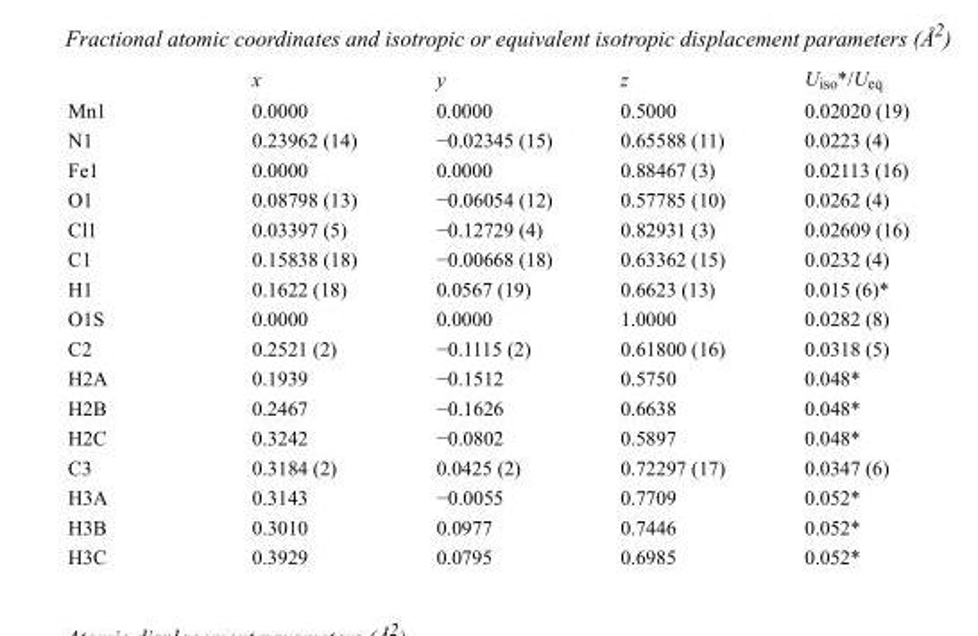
<table><thead><tr><td></td><td>x</td><td>y</td><td>z</td><td>U<sub>iso</sub>*/U<sub>eq</sub></td></tr></thead><tbody><tr><td>Mn1</td><td>0.0000</td><td>0.0000</td><td>0.5000</td><td>0.02020 (19)</td></tr><tr><td>N1</td><td>0.23962 (14)</td><td>−0.02345 (15)</td><td>0.65588 (11)</td><td>0.0223 (4)</td></tr><tr><td>Fe1</td><td>0.0000</td><td>0.0000</td><td>0.88467 (3)</td><td>0.02113 (16)</td></tr><tr><td>O1</td><td>0.08798 (13)</td><td>−0.06054 (12)</td><td>0.57785 (10)</td><td>0.0262 (4)</td></tr><tr><td>Cl1</td><td>0.03397 (5)</td><td>−0.12729 (4)</td><td>0.82931 (3)</td><td>0.02609 (16)</td></tr><tr><td>C1</td><td>0.15838 (18)</td><td>−0.00668 (18)</td><td>0.63362 (15)</td><td>0.0232 (4)</td></tr><tr><td>H1</td><td>0.1622 (18)</td><td>0.0567 (19)</td><td>0.6623 (13)</td><td>0.015 (6)*</td></tr><tr><td>O1S</td><td>0.0000</td><td>0.0000</td><td>1.0000</td><td>0.0282 (8)</td></tr><tr><td>C2</td><td>0.2521 (2)</td><td>−0.1115 (2)</td><td>0.61800 (16)</td><td>0.0318 (5)</td></tr><tr><td>H2A</td><td>0.1939</td><td>−0.1512</td><td>0.5750</td><td>0.048*</td></tr><tr><td>H2B</td><td>0.2467</td><td>−0.1626</td><td>0.6638</td><td>0.048*</td></tr><tr><td>H2C</td><td>0.3242</td><td>−0.0802</td><td>0.5897</td><td>0.048*</td></tr><tr><td>C3</td><td>0.3184 (2)</td><td>0.0425 (2)</td><td>0.72297 (17)</td><td>0.0347 (6)</td></tr><tr><td>H3A</td><td>0.3143</td><td>−0.0055</td><td>0.7709</td><td>0.052*</td></tr><tr><td>H3B</td><td>0.3010</td><td>0.0977</td><td>0.7446</td><td>0.052*</td></tr><tr><td>H3C</td><td>0.3929</td><td>0.0795</td><td>0.6985</td><td>0.052*</td></tr></tbody></table>